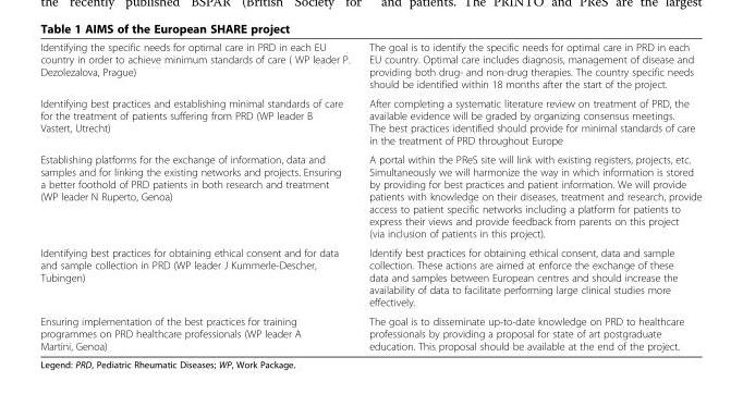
<table><tbody><tr><td>Identifying the specific needs for optimal care in PRD in each EU country in order to achieve minimum standards of care ( WP leader P. Dezolezalova, Prague)</td><td>The goal is to identify the specific needs for optimal care in PRD in each EU country. Optimal care includes diagnosis, management of disease and providing both drug- and non-drug therapies. The country specific needs should be identified within 18 months after the start of the project.</td></tr><tr><td>Identifying best practices and establishing minimal standards of care for the treatment of patients suffering from PRD (WP leader B Vastert, Utrecht)</td><td>After completing a systematic literature review on treatment of PRD, the available evidence will be graded by organizing consensus meetings. The best practices identified should provide for minimal standards of care in the treatment of PRD throughout Europe</td></tr><tr><td>Establishing platforms for the exchange of information, data and samples and for linking the existing networks and projects. Ensuring a better foothold of PRD patients in both research and treatment (WP leader N Ruperto, Genoa)</td><td>A portal within the PReS site will link with existing registers, projects, etc. Simultaneously we will harmonize the way in which information is stored by providing for best practices and patient information. We will provide patients with knowledge on their diseases, treatment and research, provide access to patient specific networks including a platform for patients to express their views and provide feedback from parents on this project (via inclusion of patients in this project).</td></tr><tr><td>Identifying best practices for obtaining ethical consent and for data and sample collection in PRD (WP leader J Kummerle-Descher, Tubingen)</td><td>Identify best practices for obtaining ethical consent, data and sample collection. These actions are aimed at enforce the exchange of these data and samples between European centres and should increase the availability of data to facilitate performing large clinical studies more effectively.</td></tr><tr><td>Ensuring implementation of the best practices for training programmes on PRD healthcare professionals (WP leader A Martini, Genoa)</td><td>The goal is to disseminate up-to-date knowledge on PRD to healthcare professionals by providing a proposal for state of art postgraduate education. This proposal should be available at the end of the project.</td></tr></tbody></table>